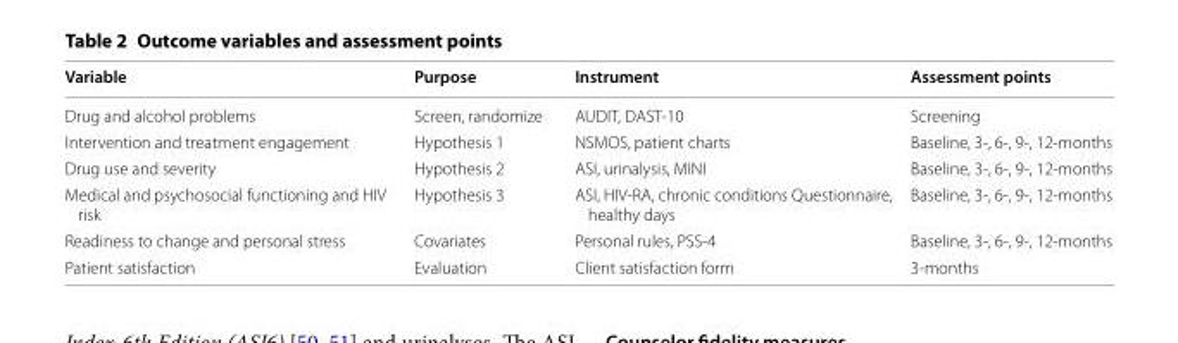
<table><thead><tr><td>Variable</td><td>Purpose</td><td>Instrument</td><td>Assessment points</td></tr></thead><tbody><tr><td>Drug and alcohol problems</td><td>Screen, randomize</td><td>AUDIT, DAST-10</td><td>Screening</td></tr><tr><td>Intervention and treatment engagement</td><td>Hypothesis 1</td><td>NSMOS, patient charts</td><td>Baseline, 3-, 6-, 9-, 12-months</td></tr><tr><td>Drug use and severity</td><td>Hypothesis 2</td><td>ASI, urinalysis, MINI</td><td>Baseline, 3-, 6-, 9-, 12-months</td></tr><tr><td>Medical and psychosocial functioning and HIV risk</td><td>Hypothesis 3</td><td>ASI, HIV-RA, chronic conditions Questionnaire, healthy days</td><td>Baseline, 3-, 6-, 9-, 12-months</td></tr><tr><td>Readiness to change and personal stress</td><td>Covariates</td><td>Personal rules, PSS-4</td><td>Baseline, 3-, 6-, 9-, 12-months</td></tr><tr><td>Patient satisfaction</td><td>Evaluation</td><td>Client satisfaction form</td><td>3-months</td></tr></tbody></table>